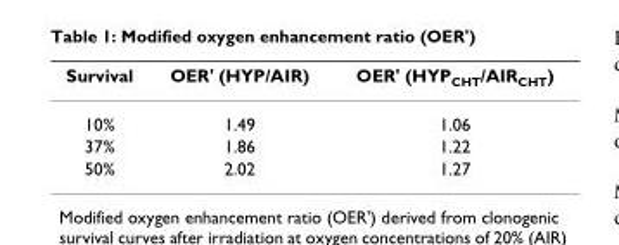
<table><thead><tr><td>Survival</td><td>OER&#x27; (HYP/AIR)</td><td>OER&#x27; (HYP<sub>CHT</sub>/AIR<sub>CHT</sub>)</td></tr></thead><tbody><tr><td>10%</td><td>1.49</td><td>1.06</td></tr><tr><td>37%</td><td>1.86</td><td>1.22</td></tr><tr><td>50%</td><td>2.02</td><td>1.27</td></tr></tbody></table>